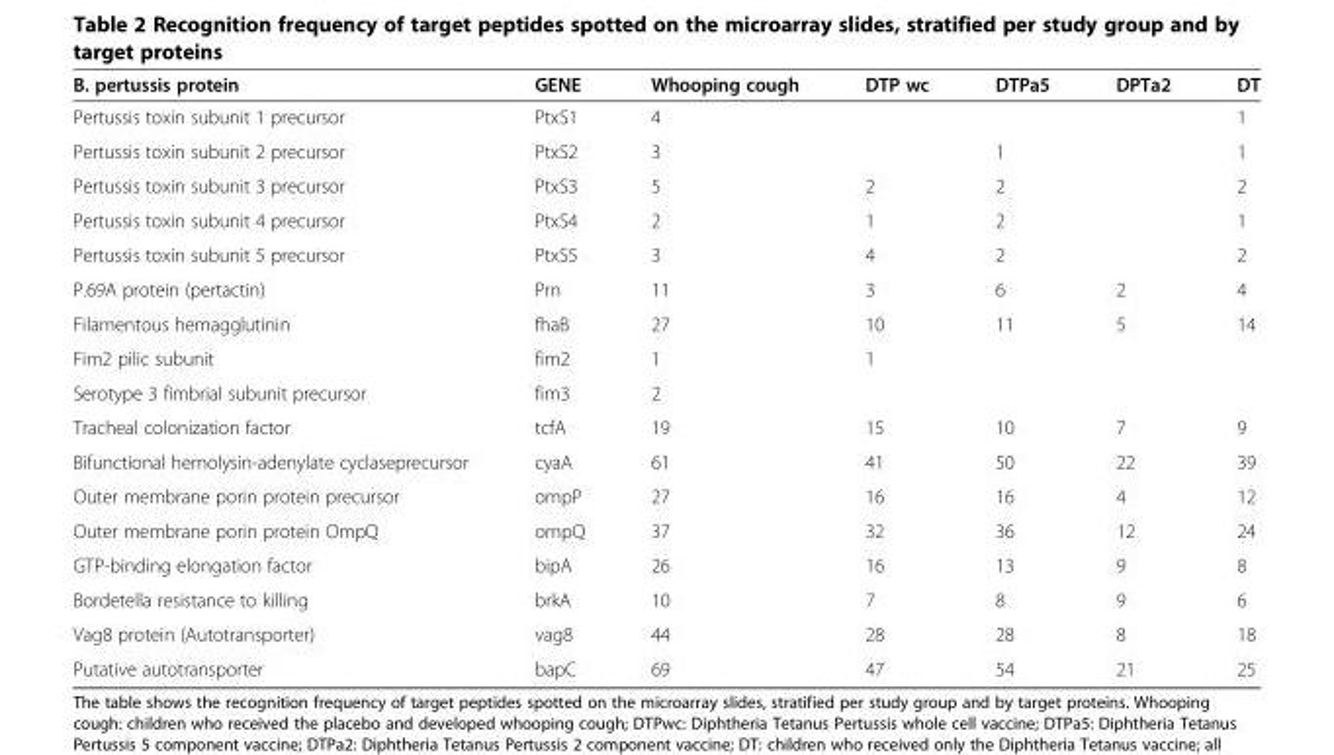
<table><thead><tr><td>B. pertussis protein</td><td>GENE</td><td>Whooping cough</td><td>DTP wc</td><td>DTPa5</td><td>DPTa2</td><td>DT</td></tr></thead><tbody><tr><td>Pertussis toxin subunit 1 precursor</td><td>PtxS1</td><td>4</td><td></td><td></td><td></td><td>1</td></tr><tr><td>Pertussis toxin subunit 2 precursor</td><td>PtxS2</td><td>3</td><td></td><td>1</td><td></td><td>1</td></tr><tr><td>Pertussis toxin subunit 3 precursor</td><td>PtxS3</td><td>5</td><td>2</td><td>2</td><td></td><td>2</td></tr><tr><td>Pertussis toxin subunit 4 precursor</td><td>PtxS4</td><td>2</td><td>1</td><td>2</td><td></td><td>1</td></tr><tr><td>Pertussis toxin subunit 5 precursor</td><td>PtxS5</td><td>3</td><td>4</td><td>2</td><td></td><td>2</td></tr><tr><td>P.69A protein (pertactin)</td><td>Prn</td><td>11</td><td>3</td><td>6</td><td>2</td><td>4</td></tr><tr><td>Filamentous hemagglutinin</td><td>fhaB</td><td>27</td><td>10</td><td>11</td><td>5</td><td>14</td></tr><tr><td>Fim2 pilic subunit</td><td>fim2</td><td>1</td><td>1</td><td></td><td></td><td></td></tr><tr><td>Serotype 3 fimbrial subunit precursor</td><td>fim3</td><td>2</td><td></td><td></td><td></td><td></td></tr><tr><td>Tracheal colonization factor</td><td>tcfA</td><td>19</td><td>15</td><td>10</td><td>7</td><td>9</td></tr><tr><td>Bifunctional hemolysin-adenylate cyclaseprecursor</td><td>cyaA</td><td>61</td><td>41</td><td>50</td><td>22</td><td>39</td></tr><tr><td>Outer membrane porin protein precursor</td><td>ompP</td><td>27</td><td>16</td><td>16</td><td>4</td><td>12</td></tr><tr><td>Outer membrane porin protein OmpQ</td><td>ompQ</td><td>37</td><td>32</td><td>36</td><td>12</td><td>24</td></tr><tr><td>GTP-binding elongation factor</td><td>bipA</td><td>26</td><td>16</td><td>13</td><td>9</td><td>8</td></tr><tr><td>Bordetella resistance to killing</td><td>brkA</td><td>10</td><td>7</td><td>8</td><td>9</td><td>6</td></tr><tr><td>Vag8 protein (Autotransporter)</td><td>vag8</td><td>44</td><td>28</td><td>28</td><td>8</td><td>18</td></tr><tr><td>Putative autotransporter</td><td>bapC</td><td>69</td><td>47</td><td>54</td><td>21</td><td>25</td></tr></tbody></table>